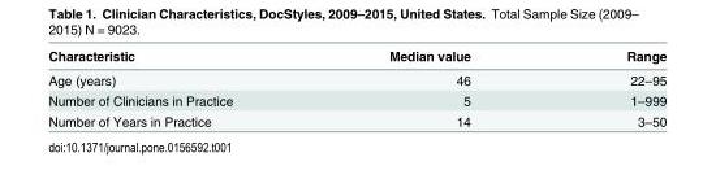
<table><thead><tr><td>Characteristic</td><td>Median value</td><td>Range</td></tr></thead><tbody><tr><td>Age (years)</td><td>46</td><td>22–95</td></tr><tr><td>Number of Clinicians in Practice</td><td>5</td><td>1–999</td></tr><tr><td>Number of Years in Practice</td><td>14</td><td>3–50</td></tr></tbody></table>